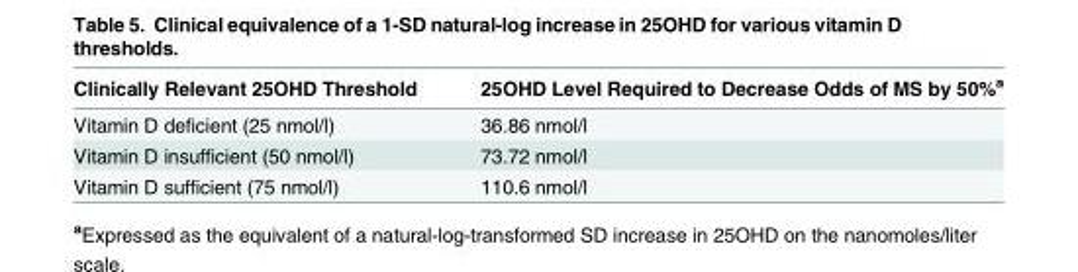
<table><thead><tr><td>Clinically Relevant 25OHD Threshold</td><td>25OHD Level Required to Decrease Odds of MS by 50%<sup>a</sup></td></tr></thead><tbody><tr><td>Vitamin D deficient (25 nmol/l)</td><td>36.86 nmol/l</td></tr><tr><td>Vitamin D insufficient (50 nmol/l)</td><td>73.72 nmol/l</td></tr><tr><td>Vitamin D sufficient (75 nmol/l)</td><td>110.6 nmol/l</td></tr></tbody></table>